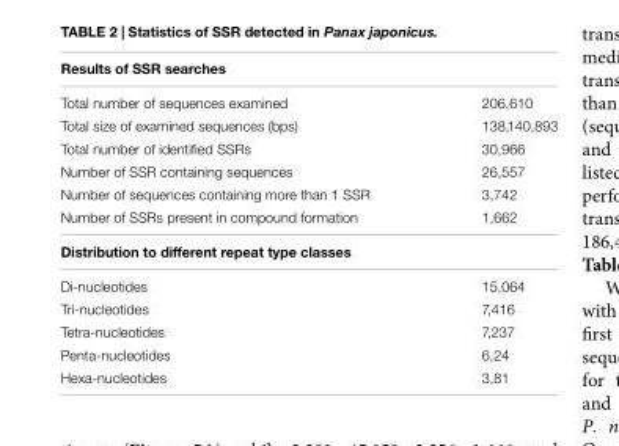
<table><thead><tr><td colspan="2">Results of SSR searches</td></tr><tr><td>Total number of sequences examined</td><td>206,610</td></tr></thead><tbody><tr><td>Total size of examined sequences (bps)</td><td>138,140,893</td></tr><tr><td>Total number of identified SSRs</td><td>30,966</td></tr><tr><td>Number of SSR containing sequences</td><td>26,557</td></tr><tr><td>Number of sequences containing more than 1 SSR</td><td>3,742</td></tr><tr><td>Number of SSRs present in compound formation</td><td>1,662</td></tr><tr><td colspan="2">Distribution to different repeat type classes</td></tr><tr><td>Di-nucleotides</td><td>15,064</td></tr><tr><td>Tri-nucleotides</td><td>7,416</td></tr><tr><td>Tetra-nucleotides</td><td>7,237</td></tr><tr><td>Penta-nucleotides</td><td>6,24</td></tr><tr><td>Hexa-nucleotides</td><td>3,81</td></tr></tbody></table>